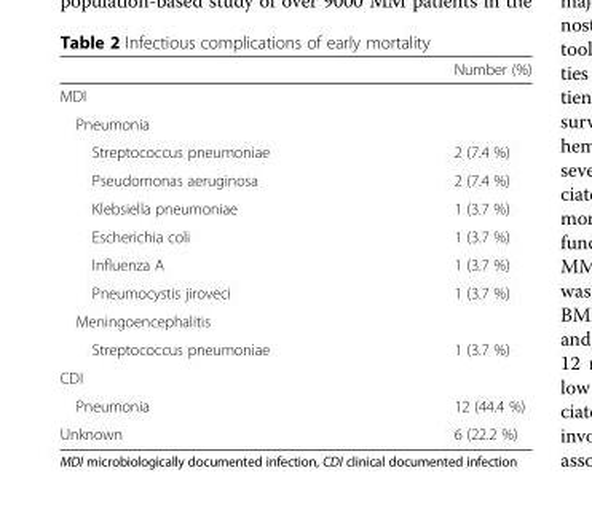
<table><thead><tr><td></td><td>Number (%)</td></tr></thead><tbody><tr><td colspan="2">MDI</td></tr><tr><td colspan="2">Pneumonia</td></tr><tr><td>Streptococcus pneumoniae</td><td>2 (7.4 %)</td></tr><tr><td>Pseudomonas aeruginosa</td><td>2 (7.4 %)</td></tr><tr><td>Klebsiella pneumoniae</td><td>1 (3.7 %)</td></tr><tr><td>Escherichia coli</td><td>1 (3.7 %)</td></tr><tr><td>Influenza A</td><td>1 (3.7 %)</td></tr><tr><td>Pneumocystis jiroveci</td><td>1 (3.7 %)</td></tr><tr><td colspan="2">Meningoencephalitis</td></tr><tr><td>Streptococcus pneumoniae</td><td>1 (3.7 %)</td></tr><tr><td colspan="2">CDI</td></tr><tr><td>Pneumonia</td><td>12 (44.4 %)</td></tr><tr><td>Unknown</td><td>6 (22.2 %)</td></tr></tbody></table>